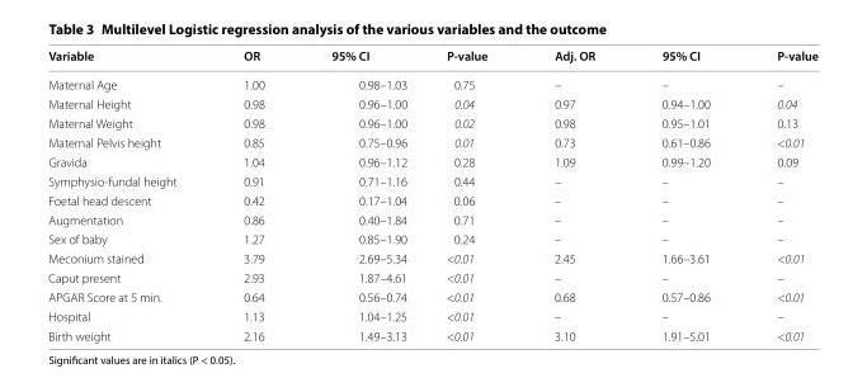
<table><thead><tr><td>Variable</td><td>OR</td><td>95% CI</td><td>P-value</td><td>Adj. OR</td><td>95% CI</td><td>P-value</td></tr></thead><tbody><tr><td>Maternal Age</td><td>1.00</td><td>0.98–1.03</td><td>0.75</td><td>–</td><td>–</td><td>–</td></tr><tr><td>Maternal Height</td><td>0.98</td><td>0.96–1.00</td><td>0.04</td><td>0.97</td><td>0.94–1.00</td><td>0.04</td></tr><tr><td>Maternal Weight</td><td>0.98</td><td>0.96–1.00</td><td>0.02</td><td>0.98</td><td>0.95–1.01</td><td>0.13</td></tr><tr><td>Maternal Pelvis height</td><td>0.85</td><td>0.75–0.96</td><td>0.01</td><td>0.73</td><td>0.61–0.86</td><td>&lt;0.01</td></tr><tr><td>Gravida</td><td>1.04</td><td>0.96–1.12</td><td>0.28</td><td>1.09</td><td>0.99–1.20</td><td>0.09</td></tr><tr><td>Symphysio-fundal height</td><td>0.91</td><td>0.71–1.16</td><td>0.44</td><td>–</td><td>–</td><td>–</td></tr><tr><td>Foetal head descent</td><td>0.42</td><td>0.17–1.04</td><td>0.06</td><td>–</td><td>–</td><td>–</td></tr><tr><td>Augmentation</td><td>0.86</td><td>0.40–1.84</td><td>0.71</td><td>–</td><td>–</td><td>–</td></tr><tr><td>Sex of baby</td><td>1.27</td><td>0.85–1.90</td><td>0.24</td><td>–</td><td>–</td><td>–</td></tr><tr><td>Meconium stained</td><td>3.79</td><td>2.69–5.34</td><td>&lt;0.01</td><td>2.45</td><td>1.66–3.61</td><td>&lt;0.01</td></tr><tr><td>Caput present</td><td>2.93</td><td>1.87–4.61</td><td>&lt;0.01</td><td>–</td><td>–</td><td>–</td></tr><tr><td>APGAR Score at 5 min.</td><td>0.64</td><td>0.56–0.74</td><td>&lt;0.01</td><td>0.68</td><td>0.57–0.86</td><td>&lt;0.01</td></tr><tr><td>Hospital</td><td>1.13</td><td>1.04–1.25</td><td>&lt;0.01</td><td>–</td><td>–</td><td>–</td></tr><tr><td>Birth weight</td><td>2.16</td><td>1.49–3.13</td><td>&lt;0.01</td><td>3.10</td><td>1.91–5.01</td><td>&lt;0.01</td></tr></tbody></table>